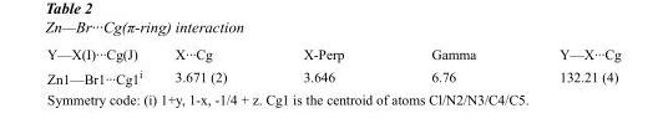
<table><tbody><tr><td>Y—X(I)···Cg(J)</td><td>X···Cg</td><td>X-Perp</td><td>Gamma</td><td>Y—X···Cg</td></tr><tr><td>Zn1—Br1···Cg1<sup>i</sup></td><td>3.671 (2)</td><td>3.646</td><td>6.76</td><td>132.21 (4)</td></tr></tbody></table>